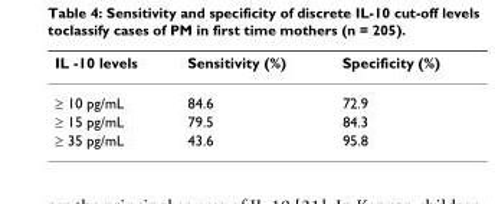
<table><thead><tr><td>IL -10 levels</td><td>Sensitivity (%)</td><td>Specificity (%)</td></tr></thead><tbody><tr><td>≥ 10 pg/mL</td><td>84.6</td><td>72.9</td></tr><tr><td>≥ 15 pg/mL</td><td>79.5</td><td>84.3</td></tr><tr><td>≥ 35 pg/mL</td><td>43.6</td><td>95.8</td></tr></tbody></table>